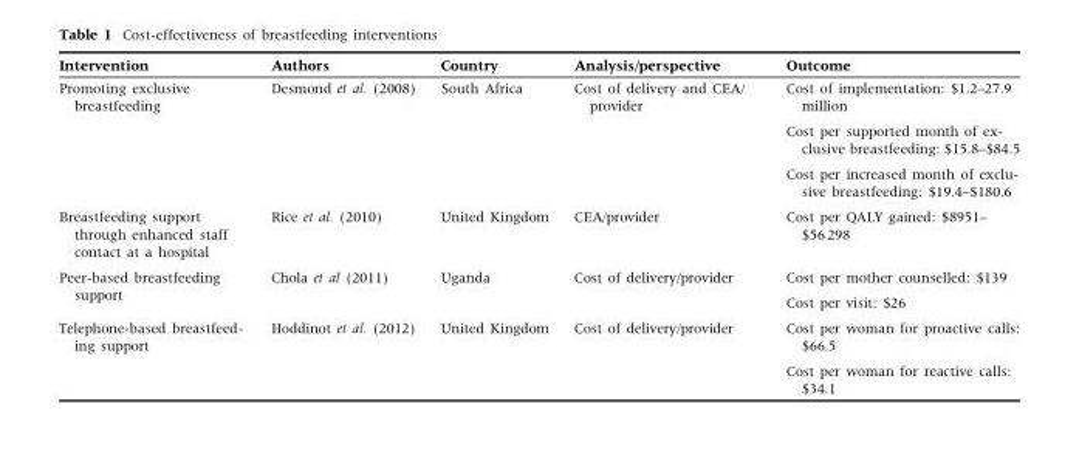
<table><thead><tr><td>Intervention</td><td>Authors</td><td>Country</td><td>Analysis/perspective</td><td>Outcome</td></tr></thead><tbody><tr><td rowspan="3">Promoting exclusive breastfeeding</td><td rowspan="3">Desmond et al. (2008)</td><td rowspan="3">South Africa</td><td rowspan="3">Cost of delivery and CEA/ provider</td><td>Cost of implementation: $1.2–27.9 million</td></tr><tr><td>Cost per supported month of ex- clusive breastfeeding: $15.8–$84.5</td></tr><tr><td>Cost per increased month of exclu- sive breastfeeding: $19.4–$180.6</td></tr><tr><td>Breastfeeding support through enhanced staff contact at a hospital</td><td>Rice et al. (2010)</td><td>United Kingdom</td><td>CEA/provider</td><td>Cost per QALY gained: $8951– $56 298</td></tr><tr><td rowspan="2">Peer-based breastfeeding support</td><td rowspan="2">Chola et al (2011)</td><td rowspan="2">Uganda</td><td rowspan="2">Cost of delivery/provider</td><td>Cost per mother counselled: $139</td></tr><tr><td>Cost per visit: $26</td></tr><tr><td rowspan="2">Telephone-based breastfeed- ing support</td><td rowspan="2">Hoddinot et al. (2012)</td><td rowspan="2">United Kingdom</td><td rowspan="2">Cost of delivery/provider</td><td>Cost per woman for proactive calls: $66.5</td></tr><tr><td>Cost per woman for reactive calls: $34.1</td></tr></tbody></table>